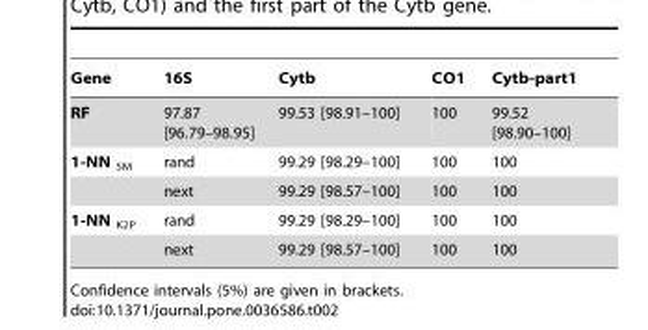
<table><thead><tr><td>Gene</td><td>16S</td><td>Cytb</td><td>CO1</td><td>Cytb-part1</td></tr></thead><tbody><tr><td>RF</td><td>97.87 [96.79–98.95]</td><td>99.53 [98.91–100]</td><td>100</td><td>99.52 [98.90–100]</td></tr><tr><td rowspan="2">1-NN <sub>SM</sub></td><td>rand</td><td>99.29 [98.29–100]</td><td>100</td><td>100</td></tr><tr><td>next</td><td>99.29 [98.57–100]</td><td>100</td><td>100</td></tr><tr><td rowspan="2">1-NN <sub>K2P</sub></td><td>rand</td><td>99.29 [98.29–100]</td><td>100</td><td>100</td></tr><tr><td>next</td><td>99.29 [98.57–100]</td><td>100</td><td>100</td></tr></tbody></table>